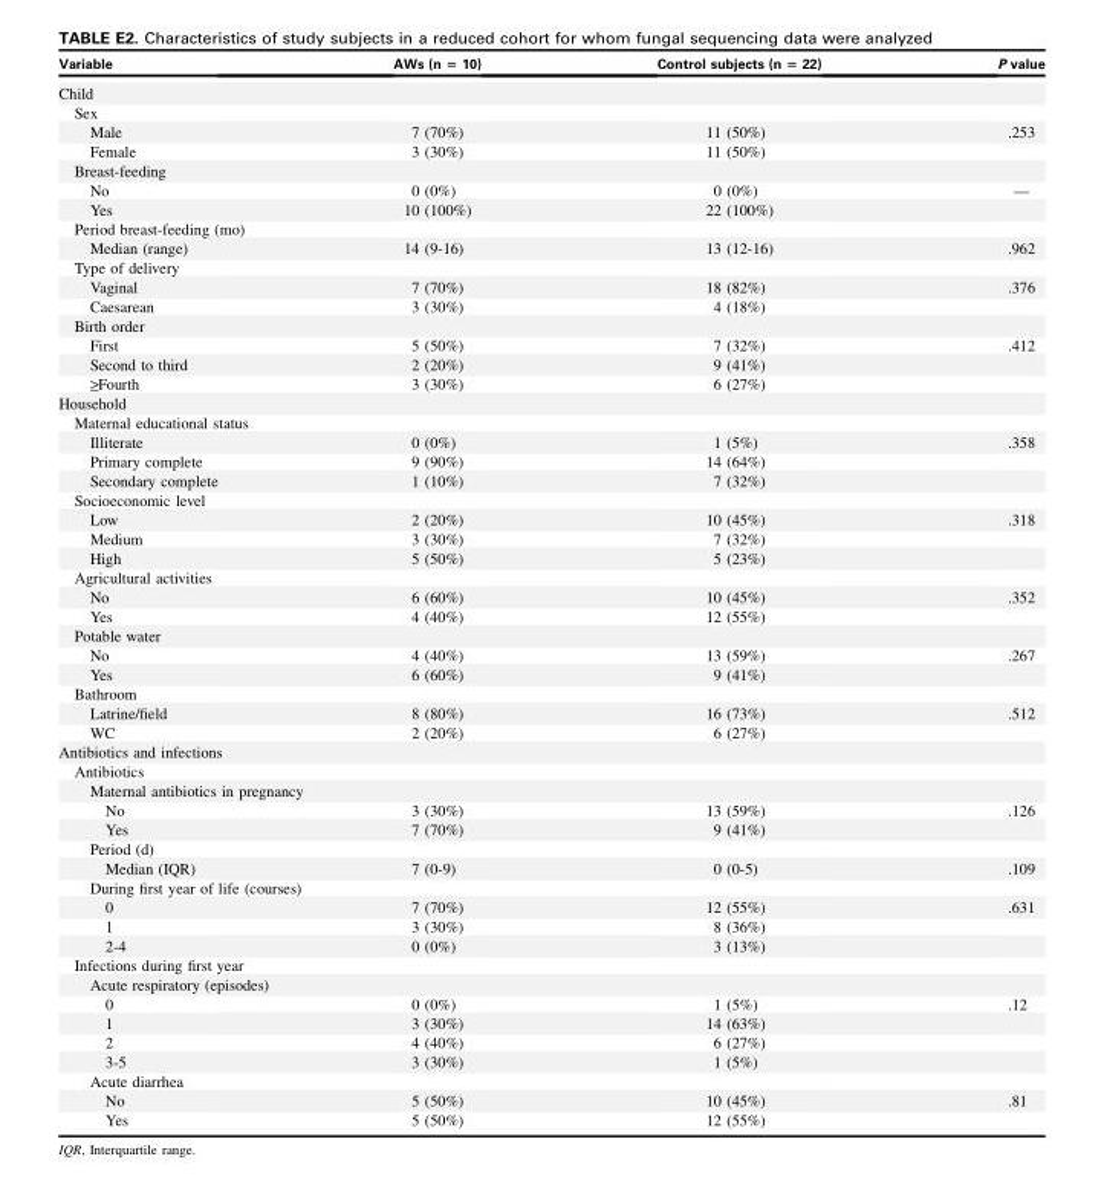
<table><thead><tr><td>Variable</td><td>AWs (n = 10)</td><td>Control subjects (n = 22)</td><td>P value</td></tr></thead><tbody><tr><td colspan="4">Child</td></tr><tr><td colspan="4">Sex</td></tr><tr><td>Male</td><td>7 (70%)</td><td>11 (50%)</td><td>.253</td></tr><tr><td>Female</td><td>3 (30%)</td><td>11 (50%)</td><td></td></tr><tr><td colspan="4">Breast-feeding</td></tr><tr><td>No</td><td>0 (0%)</td><td>0 (0%)</td><td>—</td></tr><tr><td>Yes</td><td>10 (100%)</td><td>22 (100%)</td><td></td></tr><tr><td colspan="4">Period breast-feeding (mo)</td></tr><tr><td>Median (range)</td><td>14 (9-16)</td><td>13 (12-16)</td><td>.962</td></tr><tr><td colspan="4">Type of delivery</td></tr><tr><td>Vaginal</td><td>7 (70%)</td><td>18 (82%)</td><td>.376</td></tr><tr><td>Caesarean</td><td>3 (30%)</td><td>4 (18%)</td><td></td></tr><tr><td colspan="4">Birth order</td></tr><tr><td>First</td><td>5 (50%)</td><td>7 (32%)</td><td>.412</td></tr><tr><td>Second to third</td><td>2 (20%)</td><td>9 (41%)</td><td></td></tr><tr><td>&gt;_Fourth</td><td>3 (30%)</td><td>6 (27%)</td><td></td></tr><tr><td colspan="4">Household</td></tr><tr><td colspan="4">Maternal educational status</td></tr><tr><td>Illiterate</td><td>0 (0%)</td><td>1 (5%)</td><td>.358</td></tr><tr><td>Primary complete</td><td>9 (90%)</td><td>14 (64%)</td><td></td></tr><tr><td>Secondary complete</td><td>1 (10%)</td><td>7 (32%)</td><td></td></tr><tr><td colspan="4">Socioeconomic level</td></tr><tr><td>Low</td><td>2 (20%)</td><td>10 (45%)</td><td>.318</td></tr><tr><td>Medium</td><td>3 (30%)</td><td>7 (32%)</td><td></td></tr><tr><td>High</td><td>5 (50%)</td><td>5 (23%)</td><td></td></tr><tr><td colspan="4">Agricultural activities</td></tr><tr><td>No</td><td>6 (60%)</td><td>10 (45%)</td><td>.352</td></tr><tr><td>Yes</td><td>4 (40%)</td><td>12 (55%)</td><td></td></tr><tr><td colspan="4">Potable water</td></tr><tr><td>No</td><td>4 (40%)</td><td>13 (59%)</td><td>.267</td></tr><tr><td>Yes</td><td>6 (60%)</td><td>9 (41%)</td><td></td></tr><tr><td colspan="4">Bathroom</td></tr><tr><td>Latrine/field</td><td>8 (80%)</td><td>16 (73%)</td><td>.512</td></tr><tr><td>WC</td><td>2 (20%)</td><td>6 (27%)</td><td></td></tr><tr><td colspan="4">Antibiotics and infections</td></tr><tr><td colspan="4">Antibiotics</td></tr><tr><td colspan="4">Maternal antibiotics in pregnancy</td></tr><tr><td>No</td><td>3 (30%)</td><td>13 (59%)</td><td>.126</td></tr><tr><td>Yes</td><td>7 (70%)</td><td>9 (41%)</td><td></td></tr><tr><td colspan="4">Period (d)</td></tr><tr><td>Median (IQR)</td><td>7 (0-9)</td><td>0 (0-5)</td><td>.109</td></tr><tr><td colspan="4">During first year of life (courses)</td></tr><tr><td>0</td><td>7 (70%)</td><td>12 (55%)</td><td>.631</td></tr><tr><td>1</td><td>3 (30%)</td><td>8 (36%)</td><td></td></tr><tr><td>2-4</td><td>0 (0%)</td><td>3 (13%)</td><td></td></tr><tr><td colspan="4">Infections during first year</td></tr><tr><td colspan="4">Acute respiratory (episodes)</td></tr><tr><td>0</td><td>0 (0%)</td><td>1 (5%)</td><td>.12</td></tr><tr><td>1</td><td>3 (30%)</td><td>14 (63%)</td><td></td></tr><tr><td>2</td><td>4 (40%)</td><td>6 (27%)</td><td></td></tr><tr><td>3-5</td><td>3 (30%)</td><td>1 (5%)</td><td></td></tr><tr><td colspan="4">Acute diarrhea</td></tr><tr><td>No</td><td>5 (50%)</td><td>10 (45%)</td><td>.81</td></tr><tr><td>Yes</td><td>5 (50%)</td><td>12 (55%)</td><td></td></tr></tbody></table>